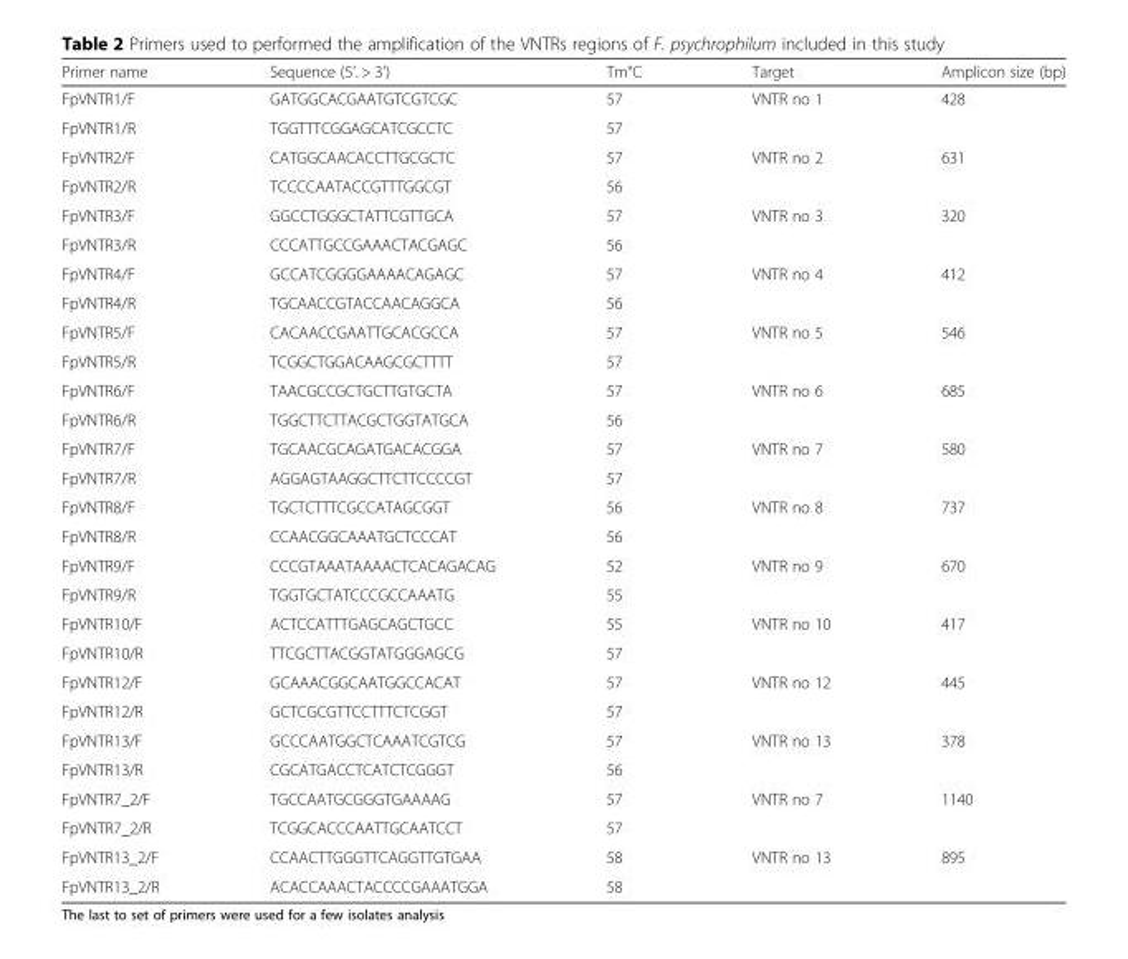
<table><thead><tr><td>Primer name</td><td>Sequence (5’. &gt; 3&#x27;)</td><td>Tm°C</td><td>Target</td><td>Amplicon size (bp)</td></tr></thead><tbody><tr><td>FpVNTR1/F</td><td>GATGGCACGAATGTCGTCGC</td><td>57</td><td>VNTR no 1</td><td>428</td></tr><tr><td>FpVNTR1/R</td><td>TGGTTTCGGAGCATCGCCTC</td><td>57</td><td></td><td></td></tr><tr><td>FpVNTR2/F</td><td>CATGGCAACACCTTGCGCTC</td><td>57</td><td>VNTR no 2</td><td>631</td></tr><tr><td>FpVNTR2/R</td><td>TCCCCAATACCGTTTGGCGT</td><td>56</td><td></td><td></td></tr><tr><td>FpVNTR3/F</td><td>GGCCTGGGCTATTCGTTGCA</td><td>57</td><td>VNTR no 3</td><td>320</td></tr><tr><td>FpVNTR3/R</td><td>CCCATTGCCGAAACTACGAGC</td><td>56</td><td></td><td></td></tr><tr><td>FpVNTR4/F</td><td>GCCATCGGGGAAAACAGAGC</td><td>57</td><td>VNTR no 4</td><td>412</td></tr><tr><td>FpVNTR4/R</td><td>TGCAACCGTACCAACAGGCA</td><td>56</td><td></td><td></td></tr><tr><td>FpVNTR5/F</td><td>CACAACCGAATTGCACGCCA</td><td>57</td><td>VNTR no 5</td><td>546</td></tr><tr><td>FpVNTR5/R</td><td>TCGGCTGGACAAGCGCTTTT</td><td>57</td><td></td><td></td></tr><tr><td>FpVNTR6/F</td><td>TAACGCCGCTGCTTGTGCTA</td><td>57</td><td>VNTR no 6</td><td>685</td></tr><tr><td>FpVNTR6/R</td><td>TGGCTTCTTACGCTGGTATGCA</td><td>56</td><td></td><td></td></tr><tr><td>FpVNTR7/F</td><td>TGCAACGCAGATGACACGGA</td><td>57</td><td>VNTR no 7</td><td>580</td></tr><tr><td>FpVNTR7/R</td><td>AGGAGTAAGGCTTCTTCCCCGT</td><td>57</td><td></td><td></td></tr><tr><td>FpVNTR8/F</td><td>TGCTCTTTCGCCATAGCGGT</td><td>56</td><td>VNTR no 8</td><td>737</td></tr><tr><td>FpVNTR8/R</td><td>CCAACGGCAAATGCTCCCAT</td><td>56</td><td></td><td></td></tr><tr><td>FpVNTR9/F</td><td>CCCGTAAATAAAACTCACAGACAG</td><td>52</td><td>VNTR no 9</td><td>670</td></tr><tr><td>FpVNTR9/R</td><td>TGGTGCTATCCCGCCAAATG</td><td>55</td><td></td><td></td></tr><tr><td>FpVNTR10/F</td><td>ACTCCATTTGAGCAGCTGCC</td><td>55</td><td>VNTR no 10</td><td>417</td></tr><tr><td>FpVNTR10/R</td><td>TTCGCTTACGGTATGGGAGCG</td><td>57</td><td></td><td></td></tr><tr><td>FpVNTR12/F</td><td>GCAAACGGCAATGGCCACAT</td><td>57</td><td>VNTR no 12</td><td>445</td></tr><tr><td>FpVNTR12/R</td><td>GCTCGCGTTCCTTTCTCGGT</td><td>57</td><td></td><td></td></tr><tr><td>FpVNTR13/F</td><td>GCCCAATGGCTCAAATCGTCG</td><td>57</td><td>VNTR no 13</td><td>378</td></tr><tr><td>FpVNTR13/R</td><td>CGCATGACCTCATCTCGGGT</td><td>56</td><td></td><td></td></tr><tr><td>FpVNTR7_2/F</td><td>TGCCAATGCGGGTGAAAAG</td><td>57</td><td>VNTR no 7</td><td>1140</td></tr><tr><td>FpVNTR7_2/R</td><td>TCGGCACCCAATTGCAATCCT</td><td>57</td><td></td><td></td></tr><tr><td>FpVNTR13_2/F</td><td>CCAACTTGGGTTCAGGTTGTGAA</td><td>58</td><td>VNTR no 13</td><td>895</td></tr><tr><td>FpVNTR13_2/R</td><td>ACACCAAACTACCCCGAAATGGA</td><td>58</td><td></td><td></td></tr></tbody></table>